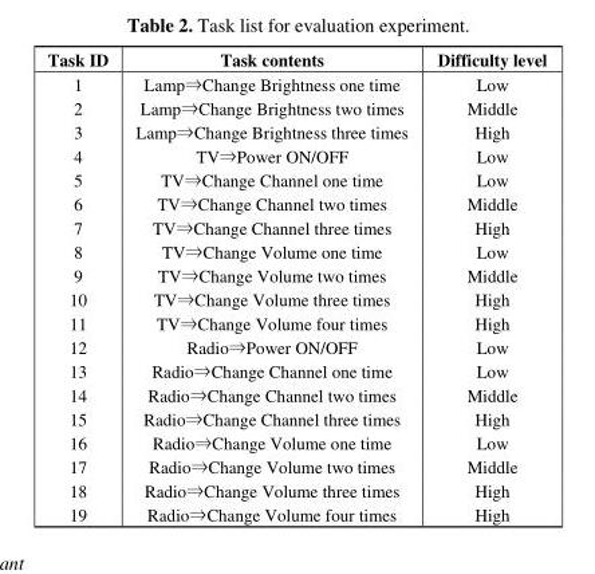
<table><thead><tr><td>Task ID</td><td>Task contents</td><td>Difficulty level</td></tr></thead><tbody><tr><td>1</td><td>Lamp⇒Change Brightness one time</td><td>Low</td></tr><tr><td>2</td><td>Lamp⇒Change Brightness two times</td><td>Middle</td></tr><tr><td>3</td><td>Lamp⇒Change Brightness three times</td><td>High</td></tr><tr><td>4</td><td>TV⇒Power ON/OFF</td><td>Low</td></tr><tr><td>5</td><td>TV⇒Change Channel one time</td><td>Low</td></tr><tr><td>6</td><td>TV⇒Change Channel two times</td><td>Middle</td></tr><tr><td>7</td><td>TV⇒Change Channel three times</td><td>High</td></tr><tr><td>8</td><td>TV⇒Change Volume one time</td><td>Low</td></tr><tr><td>9</td><td>TV⇒Change Volume two times</td><td>Middle</td></tr><tr><td>10</td><td>TV⇒Change Volume three times</td><td>High</td></tr><tr><td>11</td><td>TV⇒Change Volume four times</td><td>High</td></tr><tr><td>12</td><td>Radio⇒Power ON/OFF</td><td>Low</td></tr><tr><td>13</td><td>Radio⇒Change Channel one time</td><td>Low</td></tr><tr><td>14</td><td>Radio⇒Change Channel two times</td><td>Middle</td></tr><tr><td>15</td><td>Radio⇒Change Channel three times</td><td>High</td></tr><tr><td>16</td><td>Radio⇒Change Volume one time</td><td>Low</td></tr><tr><td>17</td><td>Radio⇒Change Volume two times</td><td>Middle</td></tr><tr><td>18</td><td>Radio⇒Change Volume three times</td><td>High</td></tr><tr><td>19</td><td>Radio⇒Change Volume four times</td><td>High</td></tr></tbody></table>